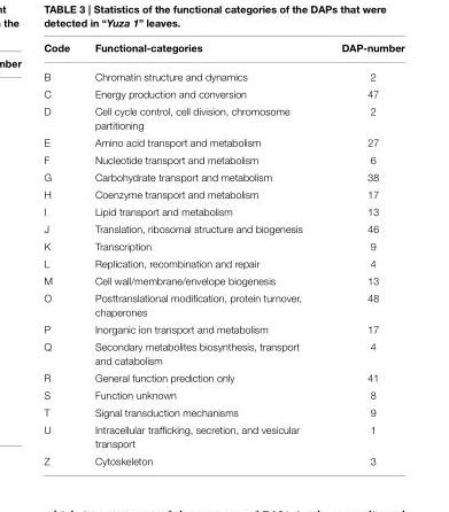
<table><thead><tr><td>Code</td><td>Functional-categories</td><td>DAP-number</td></tr></thead><tbody><tr><td>B</td><td>Chromatin structure and dynamics</td><td>2</td></tr><tr><td>C</td><td>Energy production and conversion</td><td>47</td></tr><tr><td>D</td><td>Cell cycle control, cell division, chromosome partitioning</td><td>2</td></tr><tr><td>E</td><td>Amino acid transport and metabolism</td><td>27</td></tr><tr><td>F</td><td>Nucleotide transport and metabolism</td><td>6</td></tr><tr><td>G</td><td>Carbohydrate transport and metabolism</td><td>38</td></tr><tr><td>H</td><td>Coenzyme transport and metabolism</td><td>17</td></tr><tr><td>I</td><td>Lipid transport and metabolism</td><td>13</td></tr><tr><td>J</td><td>Translation, ribosomal structure and biogenesis</td><td>46</td></tr><tr><td>K</td><td>Transcription</td><td>9</td></tr><tr><td>L</td><td>Replication, recombination and repair</td><td>4</td></tr><tr><td>M</td><td>Cell wall/membrane/envelope biogenesis</td><td>13</td></tr><tr><td>O</td><td>Posttranslational modification, protein turnover, chaperones</td><td>48</td></tr><tr><td>P</td><td>Inorganic ion transport and metabolism</td><td>17</td></tr><tr><td>Q</td><td>Secondary metabolites biosynthesis, transport and catabolism</td><td>4</td></tr><tr><td>R</td><td>General function prediction only</td><td>41</td></tr><tr><td>S</td><td>Function unknown</td><td>8</td></tr><tr><td>T</td><td>Signal transduction mechanisms</td><td>9</td></tr><tr><td>U</td><td>Intracellular trafficking, secretion, and vesicular transport</td><td>1</td></tr><tr><td>Z</td><td>Cytoskeleton</td><td>3</td></tr></tbody></table>